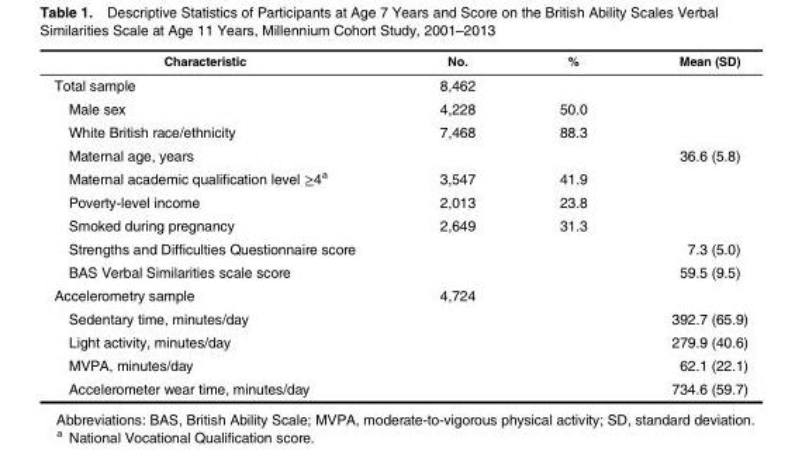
<table><thead><tr><td>Characteristic</td><td>No.</td><td>%</td><td>Mean (SD)</td></tr></thead><tbody><tr><td>Total sample</td><td>8,462</td><td></td><td></td></tr><tr><td>Male sex</td><td>4,228</td><td>50.0</td><td></td></tr><tr><td>White British race/ethnicity</td><td>7,468</td><td>88.3</td><td></td></tr><tr><td>Maternal age, years</td><td></td><td></td><td>36.6 (5.8)</td></tr><tr><td>Maternal academic qualification level ≥4<sup>a</sup></td><td>3,547</td><td>41.9</td><td></td></tr><tr><td>Poverty-level income</td><td>2,013</td><td>23.8</td><td></td></tr><tr><td>Smoked during pregnancy</td><td>2,649</td><td>31.3</td><td></td></tr><tr><td>Strengths and Difficulties Questionnaire score</td><td></td><td></td><td>7.3 (5.0)</td></tr><tr><td>BAS Verbal Similarities scale score</td><td></td><td></td><td>59.5 (9.5)</td></tr><tr><td>Accelerometry sample</td><td>4,724</td><td></td><td></td></tr><tr><td>Sedentary time, minutes/day</td><td></td><td></td><td>392.7 (65.9)</td></tr><tr><td>Light activity, minutes/day</td><td></td><td></td><td>279.9 (40.6)</td></tr><tr><td>MVPA, minutes/day</td><td></td><td></td><td>62.1 (22.1)</td></tr><tr><td>Accelerometer wear time, minutes/day</td><td></td><td></td><td>734.6 (59.7)</td></tr></tbody></table>